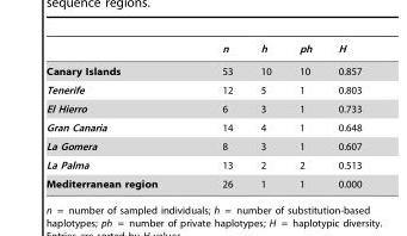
<table><thead><tr><td></td><td>n</td><td>h</td><td>ph</td><td>H</td></tr></thead><tbody><tr><td>Canary Islands</td><td>53</td><td>10</td><td>10</td><td>0.857</td></tr><tr><td>Tenerife</td><td>12</td><td>5</td><td>1</td><td>0.803</td></tr><tr><td>El Hierro</td><td>6</td><td>3</td><td>1</td><td>0.733</td></tr><tr><td>Gran Canaria</td><td>14</td><td>4</td><td>1</td><td>0.648</td></tr><tr><td>La Gomera</td><td>8</td><td>3</td><td>1</td><td>0.607</td></tr><tr><td>La Palma</td><td>13</td><td>2</td><td>2</td><td>0.513</td></tr><tr><td>Mediterranean region</td><td>26</td><td>1</td><td>1</td><td>0.000</td></tr></tbody></table>